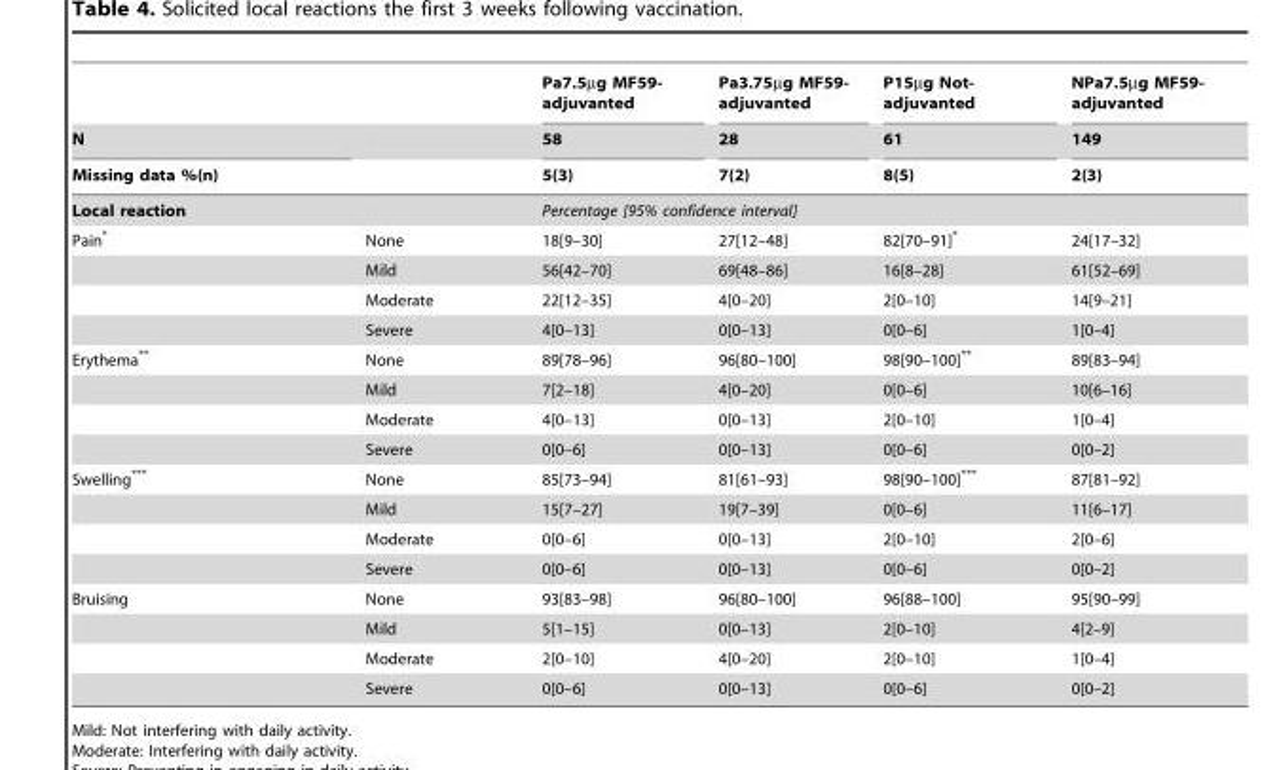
<table><thead><tr><td rowspan="3">N Missing data %(n)</td><td rowspan="3"></td><td rowspan="3">Pa7.5µg MF59- adjuvanted 58 5(3)</td><td rowspan="3">Pa3.75µg MF59- adjuvanted 28 7(2)</td><td rowspan="3">P15µg Not- adjuvanted 61 8(5)</td><td rowspan="3">NPa7.5µg MF59- adjuvanted 149 2(3)</td></tr><tr></tr><tr></tr></thead><tbody><tr><td>Local reaction</td><td></td><td colspan="4">Percentage [95% confidence interval]</td></tr><tr><td rowspan="4">Pain*</td><td>None</td><td>18[9–30]</td><td>27[12–48]</td><td>82[70–91]*</td><td>24[17–32]</td></tr><tr><td>Mild</td><td>56[42–70]</td><td>69[48–86]</td><td>16[8–28]</td><td>61[52–69]</td></tr><tr><td>Moderate</td><td>22[12–35]</td><td>4[0–20]</td><td>2[0–10]</td><td>14[9–21]</td></tr><tr><td>Severe</td><td>4[0–13]</td><td>0[0–13]</td><td>0[0–6]</td><td>1[0–4]</td></tr><tr><td rowspan="4">Erythema**</td><td>None</td><td>89[78–96]</td><td>96[80–100]</td><td>98[90–100]**</td><td>89[83–94]</td></tr><tr><td>Mild</td><td>7[2–18]</td><td>4[0–20]</td><td>0[0–6]</td><td>10[6–16]</td></tr><tr><td>Moderate</td><td>4[0–13]</td><td>0[0–13]</td><td>2[0–10]</td><td>1[0–4]</td></tr><tr><td>Severe</td><td>0[0–6]</td><td>0[0–13]</td><td>0[0–6]</td><td>0[0–2]</td></tr><tr><td rowspan="4">Swelling***</td><td>None</td><td>85[73–94]</td><td>81[61–93]</td><td>98[90–100]***</td><td>87[81–92]</td></tr><tr><td>Mild</td><td>15[7–27]</td><td>19[7–39]</td><td>0[0–6]</td><td>11[6–17]</td></tr><tr><td>Moderate</td><td>0[0–6]</td><td>0[0–13]</td><td>2[0–10]</td><td>2[0–6]</td></tr><tr><td>Severe</td><td>0[0–6]</td><td>0[0–13]</td><td>0[0–6]</td><td>0[0–2]</td></tr><tr><td rowspan="4">Bruising</td><td>None</td><td>93[83–98]</td><td>96[80–100]</td><td>96[88–100]</td><td>95[90–99]</td></tr><tr><td>Mild</td><td>5[1–15]</td><td>0[0–13]</td><td>2[0–10]</td><td>4[2–9]</td></tr><tr><td>Moderate</td><td>2[0–10]</td><td>4[0–20]</td><td>2[0–10]</td><td>1[0–4]</td></tr><tr><td>Severe</td><td>0[0–6]</td><td>0[0–13]</td><td>0[0–6]</td><td>0[0–2]</td></tr></tbody></table>